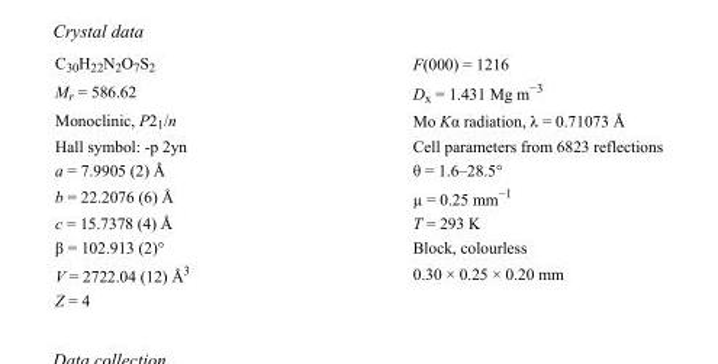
<table><tbody><tr><td>C<sub>30</sub>H<sub>22</sub>N<sub>2</sub>O<sub>7</sub>S<sub>2</sub></td><td>F(000) = 1216</td></tr><tr><td>M<sub>r</sub> = 586.62</td><td>D<sub>x</sub> = 1.431 Mg m<sup>−3</sup></td></tr><tr><td>Monoclinic, P2<sub>1</sub>/n</td><td>Mo Kα radiation, λ = 0.71073 Å</td></tr><tr><td>Hall symbol: -p 2yn</td><td>Cell parameters from 6823 reflections</td></tr><tr><td>a = 7.9905 (2) Å</td><td>θ = 1.6–28.5°</td></tr><tr><td>b = 22.2076 (6) Å</td><td>µ = 0.25 mm<sup>−1</sup></td></tr><tr><td>c = 15.7378 (4) Å</td><td>T = 293 K</td></tr><tr><td>β = 102.913 (2)°</td><td>Block, colourless</td></tr><tr><td>V = 2722.04 (12) Å<sup>3</sup></td><td>0.30 × 0.25 × 0.20 mm</td></tr><tr><td>Z = 4</td><td></td></tr></tbody></table>